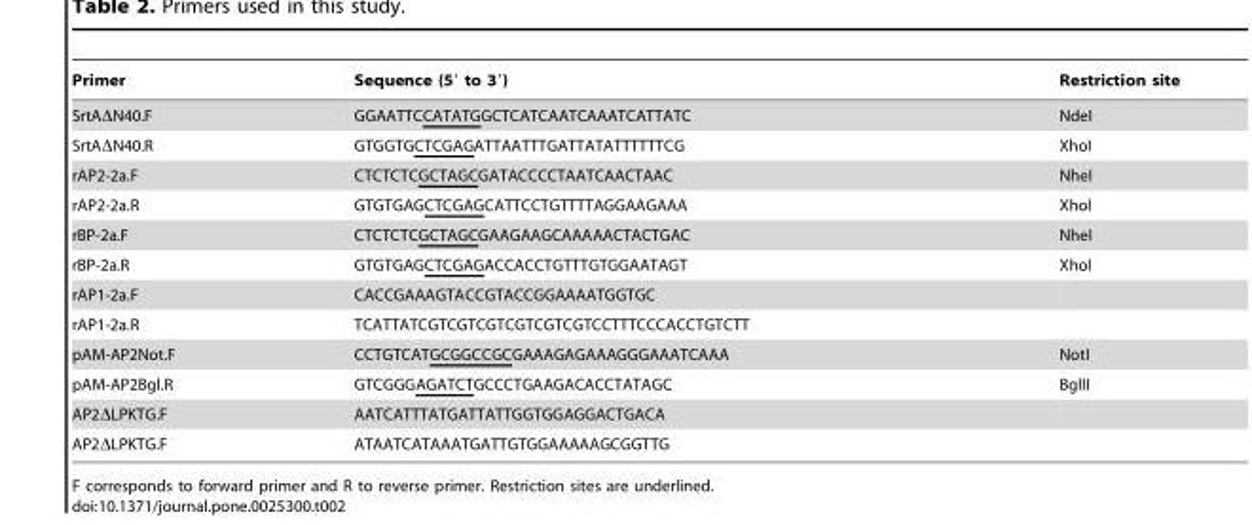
<table><thead><tr><td>Primer</td><td>Sequence (5′ to 3′)</td><td>Restriction site</td></tr></thead><tbody><tr><td>SrtAΔN40.F</td><td>GGAATTCCATATGGCTCATCAATCAAATCATTATC</td><td>NdeI</td></tr><tr><td>SrtAΔN40.R</td><td>GTGGTGCTCGAGATTAATTTGATTATATTTTTTCG</td><td>XhoI</td></tr><tr><td>rAP2-2a.F</td><td>CTCTCTCGCTAGCGATACCCCTAATCAACTAAC</td><td>NheI</td></tr><tr><td>rAP2-2a.R</td><td>GTGTGAGCTCGAGCATTCCTGTTTTAGGAAGAAA</td><td>XhoI</td></tr><tr><td>rBP-2a.F</td><td>CTCTCTCGCTAGCGAAGAAGCAAAAACTACTGAC</td><td>NheI</td></tr><tr><td>rBP-2a.R</td><td>GTGTGAGCTCGAGACCACCTGTTTGTGGAATAGT</td><td>XhoI</td></tr><tr><td>rAP1-2a.F</td><td>CACCGAAAGTACCGTACCGGAAAATGGTGC</td><td></td></tr><tr><td>rAP1-2a.R</td><td>TCATTATCGTCGTCGTCGTCGTCGTCCTTTCCCACCTGTCTT</td><td></td></tr><tr><td>pAM-AP2Not.F</td><td>CCTGTCATGCGGCCGCGAAAGAGAAAGGGAAATCAAA</td><td>NotI</td></tr><tr><td>pAM-AP2Bgl.R</td><td>GTCGGGAGATCTGCCCTGAAGACACCTATAGC</td><td>BglII</td></tr><tr><td>AP2ΔLPKTG.F</td><td>AATCATTTATGATTATTGGTGGAGGACTGACA</td><td></td></tr><tr><td>AP2ΔLPKTG.F</td><td>ATAATCATAAATGATTGTGGAAAAAGCGGTTG</td><td></td></tr></tbody></table>